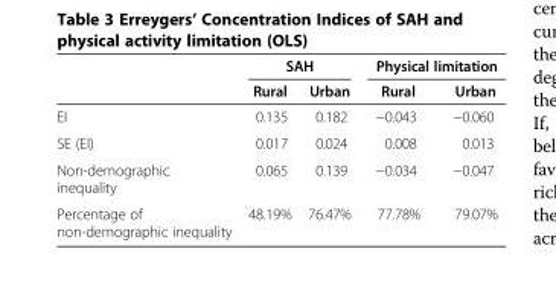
<table><thead><tr><td rowspan="2"></td><td colspan="2">SAH</td><td colspan="2">Physical limitation</td></tr><tr><td>Rural</td><td>Urban</td><td>Rural</td><td>Urban</td></tr></thead><tbody><tr><td>EI</td><td>0.135</td><td>0.182</td><td>−0.043</td><td>−0.060</td></tr><tr><td>SE (EI)</td><td>0.017</td><td>0.024</td><td>0.008</td><td>0.013</td></tr><tr><td>Non-demographic inequality</td><td>0.065</td><td>0.139</td><td>−0.034</td><td>−0.047</td></tr><tr><td>Percentage of non-demographic inequality</td><td>48.19%</td><td>76.47%</td><td>77.78%</td><td>79.07%</td></tr></tbody></table>